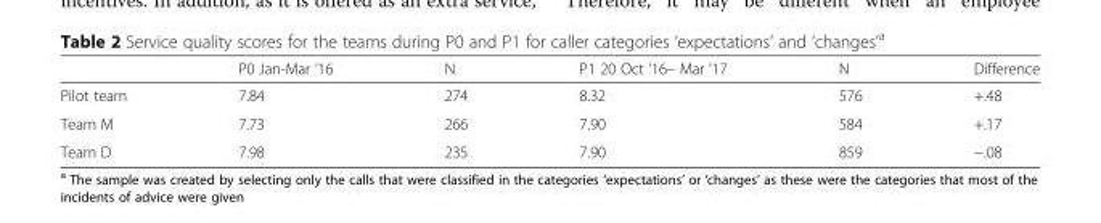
<table><thead><tr><td></td><td>P0 Jan-Mar ‘16</td><td>N</td><td>P1 20 Oct ‘16– Mar ‘17</td><td>N</td><td>Difference</td></tr></thead><tbody><tr><td>Pilot team</td><td>7.84</td><td>274</td><td>8.32</td><td>576</td><td>+.48</td></tr><tr><td>Team M</td><td>7.73</td><td>266</td><td>7.90</td><td>584</td><td>+.17</td></tr><tr><td>Team D</td><td>7.98</td><td>235</td><td>7.90</td><td>859</td><td>−.08</td></tr></tbody></table>